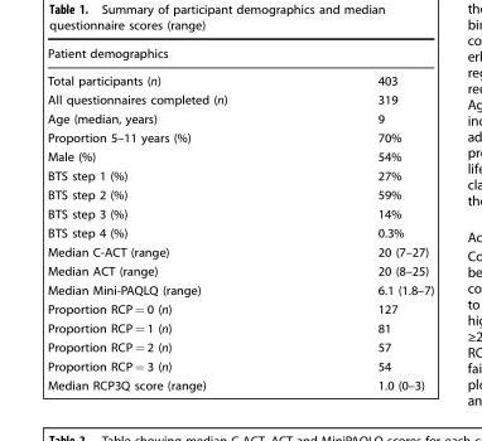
<table><thead><tr><td colspan="2">Patient demographics</td></tr><tr><td>Total participants (n)</td><td>403</td></tr></thead><tbody><tr><td>All questionnaires completed (n)</td><td>319</td></tr><tr><td>Age (median, years)</td><td>9</td></tr><tr><td>Proportion 5–11 years (%)</td><td>70%</td></tr><tr><td>Male (%)</td><td>54%</td></tr><tr><td>BTS step 1 (%)</td><td>27%</td></tr><tr><td>BTS step 2 (%)</td><td>59%</td></tr><tr><td>BTS step 3 (%)</td><td>14%</td></tr><tr><td>BTS step 4 (%)</td><td>0.3%</td></tr><tr><td>Median C-ACT (range)</td><td>20 (7–27)</td></tr><tr><td>Median ACT (range)</td><td>20 (8–25)</td></tr><tr><td>Median Mini-PAQLQ (range)</td><td>6.1 (1.8–7)</td></tr><tr><td>Proportion RCP = 0 (n)</td><td>127</td></tr><tr><td>Proportion RCP = 1 (n)</td><td>81</td></tr><tr><td>Proportion RCP = 2 (n)</td><td>57</td></tr><tr><td>Proportion RCP = 3 (n)</td><td>54</td></tr><tr><td>Median RCP3Q score (range)</td><td>1.0 (0–3)</td></tr></tbody></table>